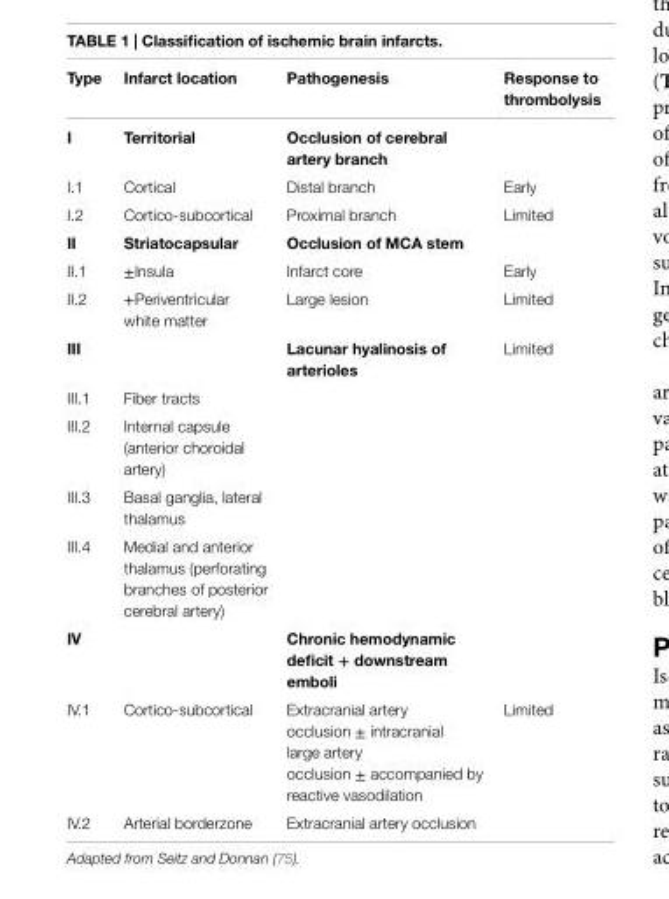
<table><thead><tr><td>Type</td><td>infarct location</td><td>Pathogenesis</td><td>Response to thrombolysis</td></tr></thead><tbody><tr><td>i</td><td>Territorial</td><td>Occlusion of cerebral artery branch</td><td></td></tr><tr><td>I.1</td><td>Cortical</td><td>Distal branch</td><td>Early</td></tr><tr><td>I.2</td><td>Cortico-subcortical</td><td>Proximal branch</td><td>Limited</td></tr><tr><td>ii</td><td>Striatocapsular</td><td>Occlusion of MCA stem</td><td></td></tr><tr><td>II.1</td><td>±Insula</td><td>Infarct core</td><td>Early</td></tr><tr><td>II.2</td><td>+Periventricular white matter</td><td>Large lesion</td><td>Limited</td></tr><tr><td>iii</td><td></td><td>Lacunar hyalinosis of arterioles</td><td>Limited</td></tr><tr><td>III.1</td><td>Fiber tracts</td><td></td><td></td></tr><tr><td>III.2</td><td>Internal capsule (anterior choroidal artery)</td><td></td><td></td></tr><tr><td>III.3</td><td>Basal ganglia, lateral thalamus</td><td></td><td></td></tr><tr><td>III.4</td><td>Medial and anterior thalamus (perforating branches of posterior cerebral artery)</td><td></td><td></td></tr><tr><td>iv</td><td></td><td>Chronic hemodynamic deficit + downstream emboli</td><td></td></tr><tr><td>IV.1</td><td>Cortico-subcortical</td><td>Extracranial artery occlusion ± intracranial large artery occlusion ± accompanied by reactive vasodilation</td><td>Limited</td></tr><tr><td>IV.2</td><td>Arterial borderzone</td><td>Extracranial artery occlusion</td><td></td></tr></tbody></table>